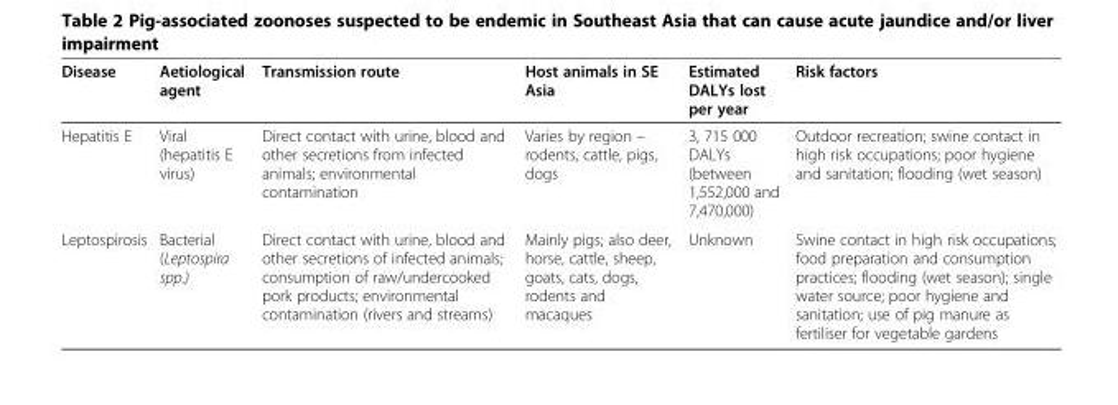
<table><thead><tr><td>Disease</td><td>Aetiological agent</td><td>Transmission route</td><td>Host animals in SE Asia</td><td>Estimated DALYs lost per year</td><td>Risk factors</td></tr></thead><tbody><tr><td>Hepatitis E</td><td>Viral (hepatitis E virus)</td><td>Direct contact with urine, blood and other secretions from infected animals; environmental contamination</td><td>Varies by region – rodents, cattle, pigs, dogs</td><td>3, 715 000 DALYs (between 1,552,000 and 7,470,000)</td><td>Outdoor recreation; swine contact in high risk occupations; poor hygiene and sanitation; flooding (wet season)</td></tr><tr><td>Leptospirosis</td><td>Bacterial (Leptospira spp.)</td><td>Direct contact with urine, blood and other secretions of infected animals; consumption of raw/undercooked pork products; environmental contamination (rivers and streams)</td><td>Mainly pigs; also deer, horse, cattle, sheep, goats, cats, dogs, rodents and macaques</td><td>Unknown</td><td>Swine contact in high risk occupations; food preparation and consumption practices; flooding (wet season); single water source; poor hygiene and sanitation; use of pig manure as fertiliser for vegetable gardens</td></tr></tbody></table>